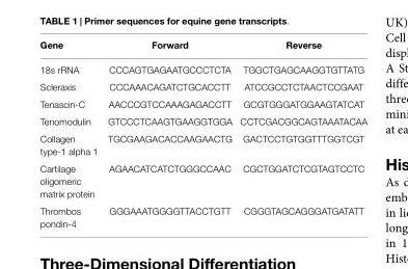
<table><thead><tr><td>Gene</td><td>Forward</td><td>Reverse</td></tr></thead><tbody><tr><td>18s rRNA</td><td>CCCAGTGAGAATGCCCTCTA</td><td>TGGCTGAGCAAGGTGTTATG</td></tr><tr><td>Scleraxis</td><td>CCCAAACAGATCTGCACCTT</td><td>ATCCGCCTCTAACTCCGAAT</td></tr><tr><td>Tenascin-C</td><td>AACCCGTCCAAAGAGACCTT</td><td>GCGTGGGATGGAAGTATCAT</td></tr><tr><td>Tenomodulin</td><td>GTCCCTCAAGTGAAGGTGGA</td><td>CCTCGACGGCAGTAAATACAA</td></tr><tr><td>Collagen type-1 alpha 1</td><td>TGCGAAGACACCAAGAACTG</td><td>GACTCCTGTGGTTTGGTCGT</td></tr><tr><td>Cartilage oligomeric matrix protein</td><td>AGAACATCATCTGGGCCAAC</td><td>CGCTGGATCTCGTAGTCCTC</td></tr><tr><td>Thrombos pondin-4</td><td>GGGAAATGGGGTTACCTGTT</td><td>CGGGTAGCAGGGATGATATT</td></tr></tbody></table>